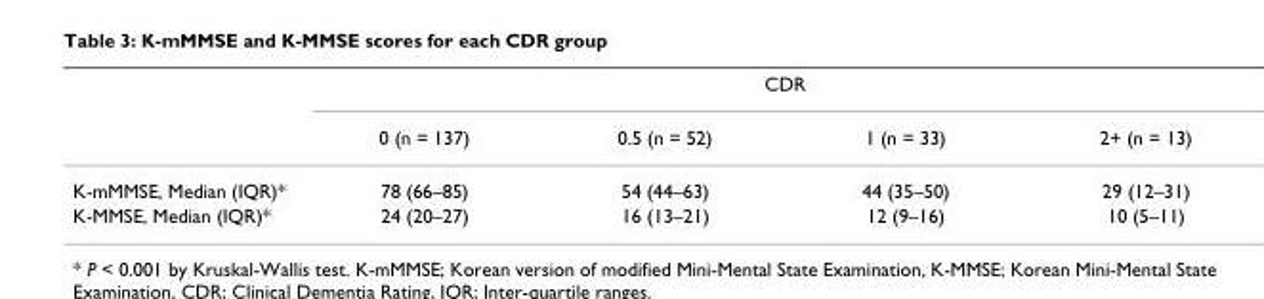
<table><thead><tr><td rowspan="2"></td><td colspan="4">CDR</td></tr><tr><td>0 (n = 137)</td><td>0.5 (n = 52)</td><td>1 (n = 33)</td><td>2+ (n = 13)</td></tr></thead><tbody><tr><td>K-mMMSE, Median (IQR)*</td><td>78 (66–85)</td><td>54 (44–63)</td><td>44 (35–50)</td><td>29 (12–31)</td></tr><tr><td>K-MMSE, Median (IQR)*</td><td>24 (20–27)</td><td>16 (13–21)</td><td>12 (9–16)</td><td>10 (5–11)</td></tr></tbody></table>